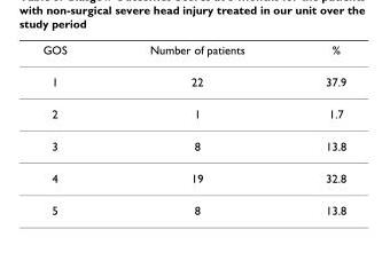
<table><thead><tr><td>GOS</td><td>Number of patients</td><td>%</td></tr></thead><tbody><tr><td>1</td><td>22</td><td>37.9</td></tr><tr><td>2</td><td>1</td><td>1.7</td></tr><tr><td>3</td><td>8</td><td>13.8</td></tr><tr><td>4</td><td>19</td><td>32.8</td></tr><tr><td>5</td><td>8</td><td>13.8</td></tr></tbody></table>